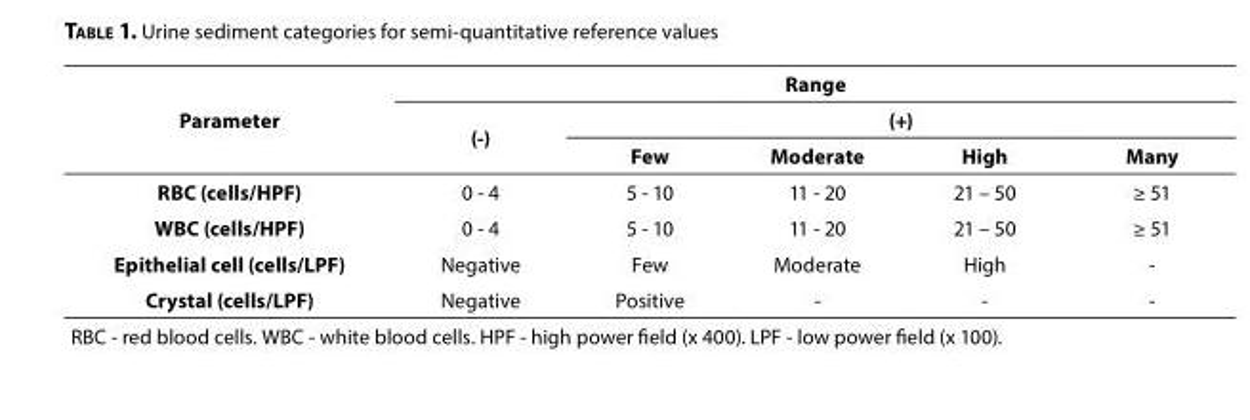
<table><thead><tr><td rowspan="3">Parameter</td><td colspan="5">Range</td></tr><tr><td rowspan="2">(-)</td><td colspan="4">(+)</td></tr><tr><td>Few</td><td>Moderate</td><td>High</td><td>Many</td></tr></thead><tbody><tr><td>RBC (cells/HPF)</td><td>0 - 4</td><td>5 - 10</td><td>11 - 20</td><td>21 – 50</td><td>≥ 51</td></tr><tr><td>WBC (cells/HPF)</td><td>0 - 4</td><td>5 - 10</td><td>11 - 20</td><td>21 – 50</td><td>≥ 51</td></tr><tr><td>Epithelial cell (cells/LPF)</td><td>Negative</td><td>Few</td><td>Moderate</td><td>High</td><td>-</td></tr><tr><td>Crystal (cells/LPF)</td><td>Negative</td><td>Positive</td><td>-</td><td>-</td><td>-</td></tr><tr><td colspan="6">RBC - red blood cells. WBC - white blood cells. HPF - high power field (x 400). LPF - low power field (x 100).</td></tr></tbody></table>